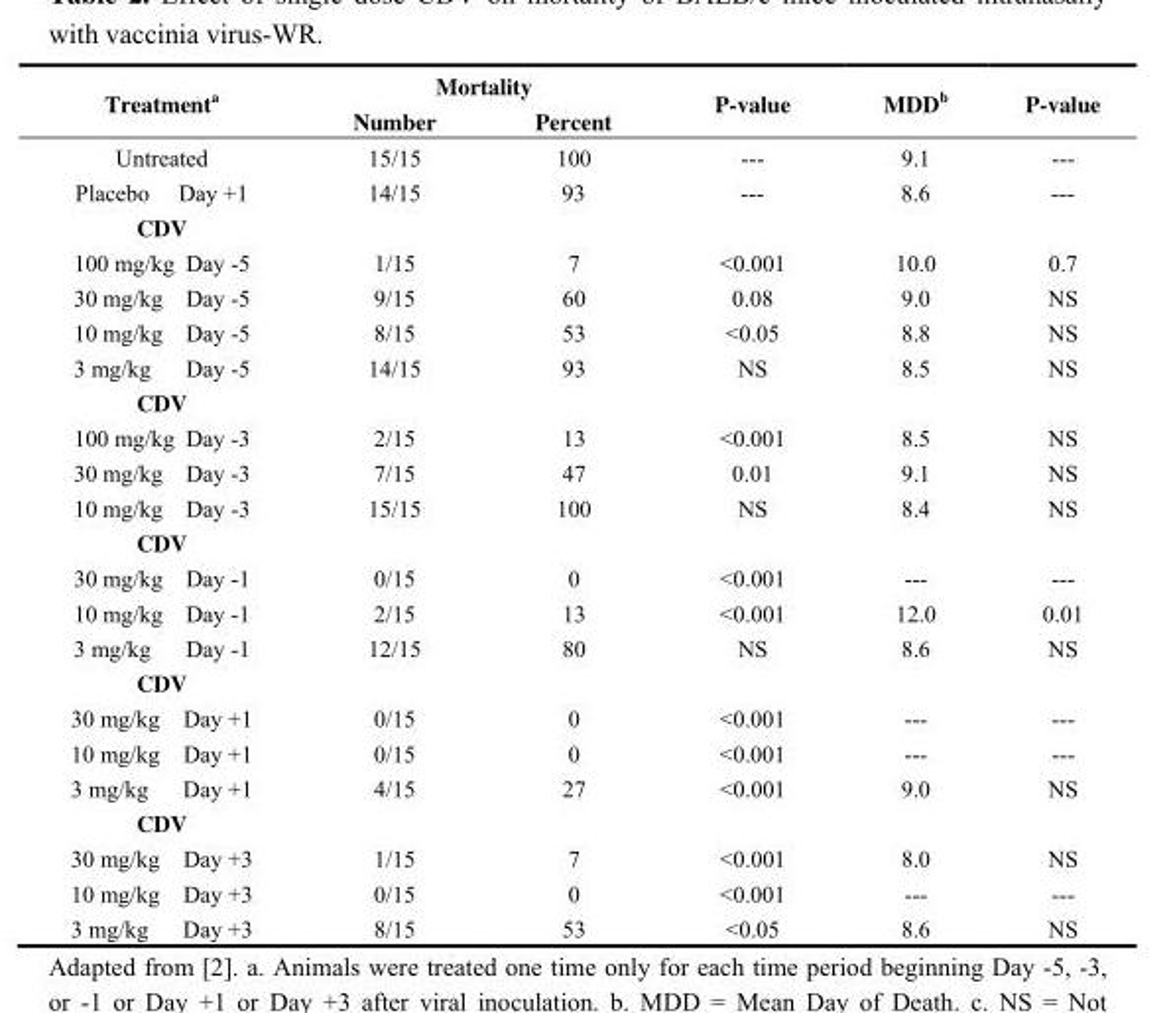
<table><thead><tr><td rowspan="3" colspan="2">Treatment<sup>a</sup> Untreated</td><td colspan="2">Mortality</td><td rowspan="4">P-value --- ---</td><td rowspan="4">MDD<sup>b</sup> 9.1 8.6</td><td rowspan="4">P-value --- ---</td></tr><tr><td rowspan="3">Number 15/15 14/15</td><td rowspan="3">Percent 100 93</td></tr><tr></tr><tr><td>Placebo</td><td>Day +1</td></tr></thead><tbody><tr><td colspan="7">CDV</td></tr><tr><td>100 mg/kg</td><td>Day -5</td><td>1/15</td><td>7</td><td>&lt;0.001</td><td>10.0</td><td>0.7</td></tr><tr><td>30 mg/kg</td><td>Day -5</td><td>9/15</td><td>60</td><td>0.08</td><td>9.0</td><td>NS</td></tr><tr><td>10 mg/kg</td><td>Day -5</td><td>8/15</td><td>53</td><td>&lt;0.05</td><td>8.8</td><td>NS</td></tr><tr><td>3 mg/kg</td><td>Day -5</td><td>14/15</td><td>93</td><td>NS</td><td>8.5</td><td>NS</td></tr><tr><td colspan="7">CDV</td></tr><tr><td>100 mg/kg</td><td>Day -3</td><td>2/15</td><td>13</td><td>&lt;0.001</td><td>8.5</td><td>NS</td></tr><tr><td>30 mg/kg</td><td>Day -3</td><td>7/15</td><td>47</td><td>0.01</td><td>9.1</td><td>NS</td></tr><tr><td>10 mg/kg</td><td>Day -3</td><td>15/15</td><td>100</td><td>NS</td><td>8.4</td><td>NS</td></tr><tr><td colspan="7">CDV</td></tr><tr><td>30 mg/kg</td><td>Day -1</td><td>0/15</td><td>0</td><td>&lt;0.001</td><td>---</td><td>---</td></tr><tr><td>10 mg/kg</td><td>Day -1</td><td>2/15</td><td>13</td><td>&lt;0.001</td><td>12.0</td><td>0.01</td></tr><tr><td>3 mg/kg</td><td>Day -1</td><td>12/15</td><td>80</td><td>NS</td><td>8.6</td><td>NS</td></tr><tr><td colspan="7">CDV</td></tr><tr><td>30 mg/kg</td><td>Day +1</td><td>0/15</td><td>0</td><td>&lt;0.001</td><td>---</td><td>---</td></tr><tr><td>10 mg/kg</td><td>Day +1</td><td>0/15</td><td>0</td><td>&lt;0.001</td><td>---</td><td>---</td></tr><tr><td>3 mg/kg</td><td>Day +1</td><td>4/15</td><td>27</td><td>&lt;0.001</td><td>9.0</td><td>NS</td></tr><tr><td colspan="7">CDV</td></tr><tr><td>30 mg/kg</td><td>Day +3</td><td>1/15</td><td>7</td><td>&lt;0.001</td><td>8.0</td><td>NS</td></tr><tr><td>10 mg/kg</td><td>Day +3</td><td>0/15</td><td>0</td><td>&lt;0.001</td><td>---</td><td>---</td></tr><tr><td>3 mg/kg</td><td>Day +3</td><td>8/15</td><td>53</td><td>&lt;0.05</td><td>8.6</td><td>NS</td></tr></tbody></table>